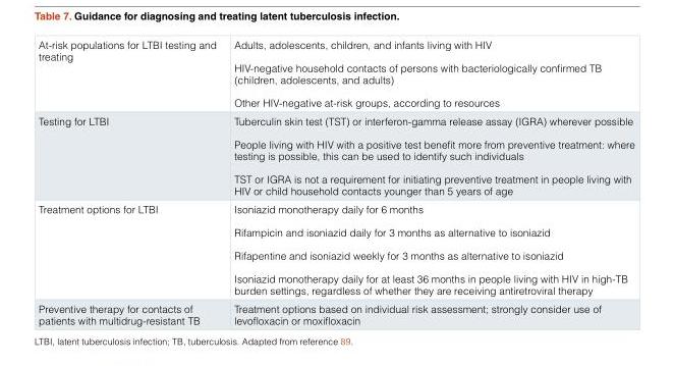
<table><tbody><tr><td>At-risk populations for LTBI testing and treating</td><td>Adults, adolescents, children, and infants living with HIV HIV-negative household contacts of persons with bacteriologically confirmed TB (children, adolescents, and adults) Other HIV-negative at-risk groups, according to resources</td></tr><tr><td>Testing for LTBI</td><td>Tuberculin skin test (TST) or interferon-gamma release assay (IGRA) wherever possible People living with HIV with a positive test benefit more from preventive treatment: where testing is possible, this can be used to identify such individuals TST or IGRA is not a requirement for initiating preventive treatment in people living with HIV or child household contacts younger than 5 years of age</td></tr><tr><td>Treatment options for LTBI</td><td>Isoniazid monotherapy daily for 6 months Rifampicin and isoniazid daily for 3 months as alternative to isoniazid Rifapentine and isoniazid weekly for 3 months as alternative to isoniazid Isoniazid monotherapy daily for at least 36 months in people living with HIV in high-TB burden settings, regardless of whether they are receiving antiretroviral therapy</td></tr><tr><td>Preventive therapy for contacts of patients with multidrug-resistant TB</td><td>Treatment options based on individual risk assessment; strongly consider use of levofloxacin or moxifloxacin</td></tr></tbody></table>